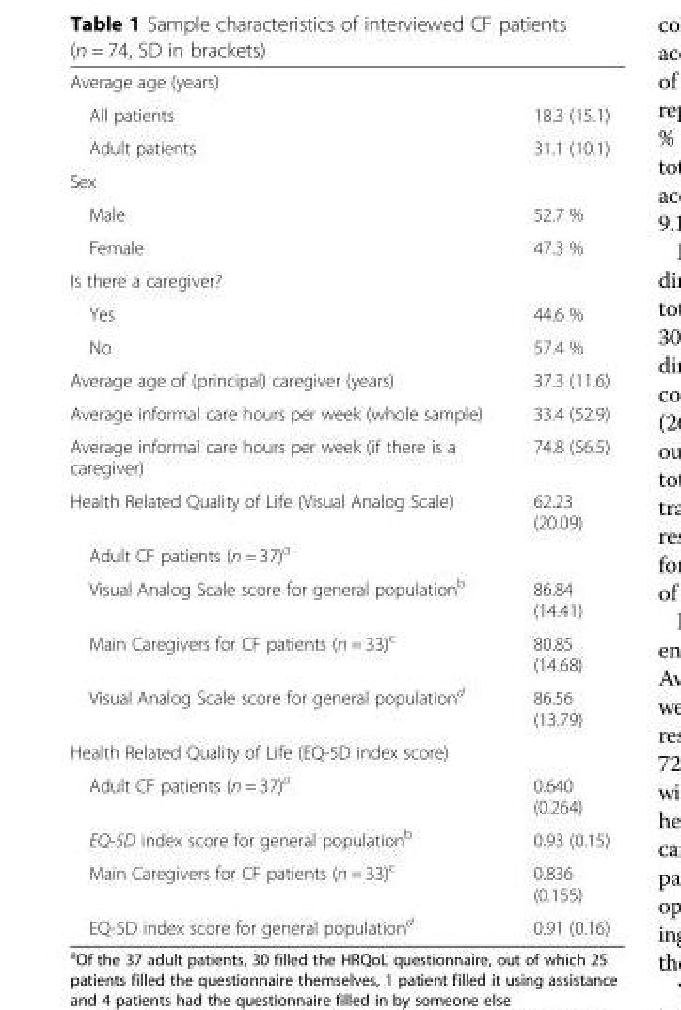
<table><tbody><tr><td colspan="2">Average age (years)</td></tr><tr><td>All patients</td><td>18.3 (15.1)</td></tr><tr><td>Adult patients</td><td>31.1 (10.1)</td></tr><tr><td colspan="2">Sex</td></tr><tr><td>Male</td><td>52.7 %</td></tr><tr><td>Female</td><td>47.3 %</td></tr><tr><td colspan="2">Is there a caregiver?</td></tr><tr><td>Yes</td><td>44.6 %</td></tr><tr><td>No</td><td>57.4 %</td></tr><tr><td>Average age of (principal) caregiver (years)</td><td>37.3 (11.6)</td></tr><tr><td>Average informal care hours per week (whole sample)</td><td>33.4 (52.9)</td></tr><tr><td>Average informal care hours per week (if there is a caregiver)</td><td>74.8 (56.5)</td></tr><tr><td>Health Related Quality of Life (Visual Analog Scale)</td><td>62.23 (20.09)</td></tr><tr><td colspan="2">Adult CF patients (n = 37)<sup>a</sup></td></tr><tr><td>Visual Analog Scale score for general population<sup>b</sup></td><td>86.84 (14.41)</td></tr><tr><td>Main Caregivers for CF patients (n = 33)<sup>c</sup></td><td>80.85 (14.68)</td></tr><tr><td>Visual Analog Scale score for general population<sup>d</sup></td><td>86.56 (13.79)</td></tr><tr><td colspan="2">Health Related Quality of Life (EQ-5D index score)</td></tr><tr><td>Adult CF patients (n = 37)<sup>a</sup></td><td>0.640 (0.264)</td></tr><tr><td>EQ-5D index score for general population<sup>b</sup></td><td>0.93 (0.15)</td></tr><tr><td>Main Caregivers for CF patients (n = 33)<sup>c</sup></td><td>0.836 (0.155)</td></tr><tr><td>EQ-5D index score for general population<sup>d</sup></td><td>0.91 (0.16)</td></tr></tbody></table>